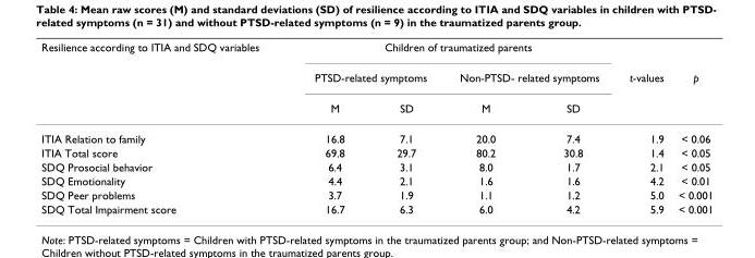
<table><thead><tr><td rowspan="3">Resilience according to ITIA and SDQ variables</td><td colspan="4">Children of traumatized parents</td><td rowspan="3">t-values</td><td rowspan="3">p</td></tr><tr><td colspan="2">PTSD-related symptoms</td><td colspan="2">Non-PTSD- related symptoms</td></tr><tr><td>M</td><td>SD</td><td>M</td><td>SD</td></tr></thead><tbody><tr><td>ITIA Relation to family</td><td>16.8</td><td>7.1</td><td>20.0</td><td>7.4</td><td>1.9</td><td>&lt; 0.06</td></tr><tr><td>ITIA Total score</td><td>69.8</td><td>29.7</td><td>80.2</td><td>30.8</td><td>1.4</td><td>&lt; 0.05</td></tr><tr><td>SDQ Prosocial behavior</td><td>6.4</td><td>3.1</td><td>8.0</td><td>1.7</td><td>2.1</td><td>&lt; 0.05</td></tr><tr><td>SDQ Emotionality</td><td>4.4</td><td>2.1</td><td>1.6</td><td>1.6</td><td>4.2</td><td>&lt; 0.01</td></tr><tr><td>SDQ Peer problems</td><td>3.7</td><td>1.9</td><td>1.1</td><td>1.2</td><td>5.0</td><td>&lt; 0.001</td></tr><tr><td>SDQ Total Impairment score</td><td>16.7</td><td>6.3</td><td>6.0</td><td>4.2</td><td>5.9</td><td>&lt; 0.001</td></tr></tbody></table>